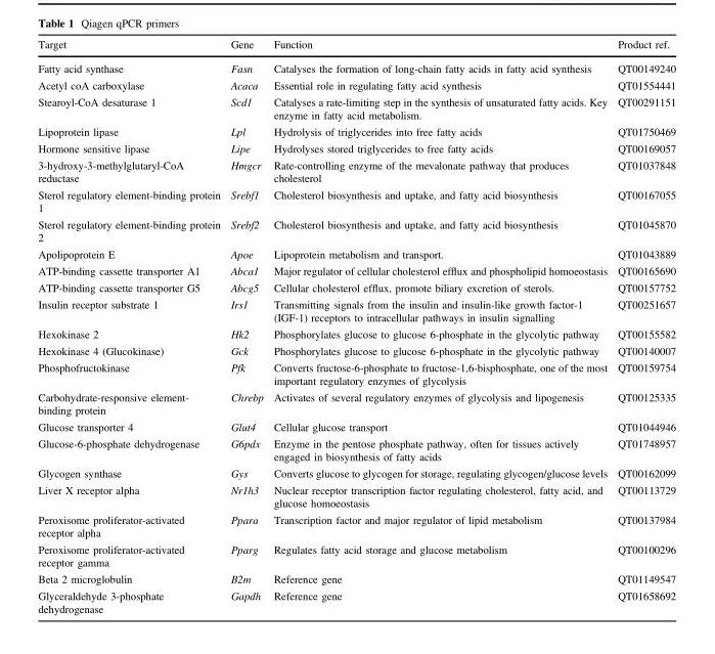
<table><thead><tr><td>Target</td><td>Gene</td><td>Function</td><td>Product ref.</td></tr></thead><tbody><tr><td>Fatty acid synthase</td><td>Fasn</td><td>Catalyses the formation of long-chain fatty acids in fatty acid synthesis</td><td>QT00149240</td></tr><tr><td>Acetyl coA carboxylase</td><td>Acaca</td><td>Essential role in regulating fatty acid synthesis</td><td>QT01554441</td></tr><tr><td>Stearoyl-CoA desaturase 1</td><td>Scd1</td><td>Catalyses a rate-limiting step in the synthesis of unsaturated fatty acids. Key enzyme in fatty acid metabolism.</td><td>QT00291151</td></tr><tr><td>Lipoprotein lipase</td><td>Lpl</td><td>Hydrolysis of triglycerides into free fatty acids</td><td>QT01750469</td></tr><tr><td>Hormone sensitive lipase</td><td>Lipe</td><td>Hydrolyses stored triglycerides to free fatty acids</td><td>QT00169057</td></tr><tr><td>3-hydroxy-3-methylglutaryl-CoA reductase</td><td>Hmgcr</td><td>Rate-controlling enzyme of the mevalonate pathway that produces cholesterol</td><td>QT01037848</td></tr><tr><td>Sterol regulatory element-binding protein 1</td><td>Srebf1</td><td>Cholesterol biosynthesis and uptake, and fatty acid biosynthesis</td><td>QT00167055</td></tr><tr><td>Sterol regulatory element-binding protein 2</td><td>Srebf2</td><td>Cholesterol biosynthesis and uptake, and fatty acid biosynthesis</td><td>QT01045870</td></tr><tr><td>Apolipoprotein E</td><td>Apoe</td><td>Lipoprotein metabolism and transport.</td><td>QT01043889</td></tr><tr><td>ATP-binding cassette transporter A1</td><td>Abca1</td><td>Major regulator of cellular cholesterol efflux and phospholipid homoeostasis</td><td>QT00165690</td></tr><tr><td>ATP-binding cassette transporter G5</td><td>Abcg5</td><td>Cellular cholesterol efflux, promote biliary excretion of sterols.</td><td>QT00157752</td></tr><tr><td>Insulin receptor substrate 1</td><td>Irs1</td><td>Transmitting signals from the insulin and insulin-like growth factor-1 (IGF-1) receptors to intracellular pathways in insulin signalling</td><td>QT00251657</td></tr><tr><td>Hexokinase 2</td><td>Hk2</td><td>Phosphorylates glucose to glucose 6-phosphate in the glycolytic pathway</td><td>QT00155582</td></tr><tr><td>Hexokinase 4 (Glucokinase)</td><td>Gck</td><td>Phosphorylates glucose to glucose 6-phosphate in the glycolytic pathway</td><td>QT00140007</td></tr><tr><td>Phosphofructokinase</td><td>Pfk</td><td>Converts fructose-6-phosphate to fructose-1,6-bisphosphate, one of the most important regulatory enzymes of glycolysis</td><td>QT00159754</td></tr><tr><td>Carbohydrate-responsive element- binding protein</td><td>Chrebp</td><td>Activates of several regulatory enzymes of glycolysis and lipogenesis</td><td>QT00125335</td></tr><tr><td>Glucose transporter 4</td><td>Glut4</td><td>Cellular glucose transport</td><td>QT01044946</td></tr><tr><td>Glucose-6-phosphate dehydrogenase</td><td>G6pdx</td><td>Enzyme in the pentose phosphate pathway, often for tissues actively engaged in biosynthesis of fatty acids</td><td>QT01748957</td></tr><tr><td>Glycogen synthase</td><td>Gys</td><td>Converts glucose to glycogen for storage, regulating glycogen/glucose levels</td><td>QT00162099</td></tr><tr><td>Liver X receptor alpha</td><td>Nr1h3</td><td>Nuclear receptor transcription factor regulating cholesterol, fatty acid, and glucose homoeostasis</td><td>QT00113729</td></tr><tr><td>Peroxisome proliferator-activated receptor alpha</td><td>Ppara</td><td>Transcription factor and major regulator of lipid metabolism</td><td>QT00137984</td></tr><tr><td>Peroxisome proliferator-activated receptor gamma</td><td>Pparg</td><td>Regulates fatty acid storage and glucose metabolism</td><td>QT00100296</td></tr><tr><td>Beta 2 microglobulin</td><td>B2m</td><td>Reference gene</td><td>QT01149547</td></tr><tr><td>Glyceraldehyde 3-phosphate dehydrogenase</td><td>Gapdh</td><td>Reference gene</td><td>QT01658692</td></tr></tbody></table>